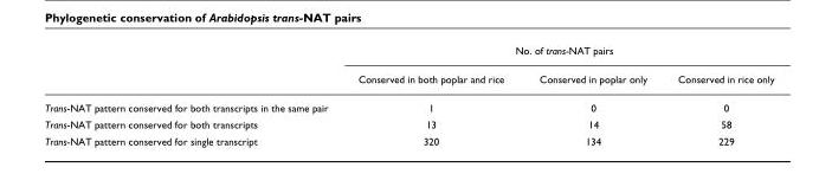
<table><thead><tr><td rowspan="2"></td><td colspan="3">No. of trans-NAT pairs</td></tr><tr><td>Conserved in both poplar and rice</td><td>Conserved in poplar only</td><td>Conserved in rice only</td></tr></thead><tbody><tr><td>Trans-NAT pattern conserved for both transcripts in the same pair</td><td>1</td><td>0</td><td>0</td></tr><tr><td>Trans-NAT pattern conserved for both transcripts</td><td>13</td><td>14</td><td>58</td></tr><tr><td>Trans-NAT pattern conserved for single transcript</td><td>320</td><td>134</td><td>229</td></tr></tbody></table>